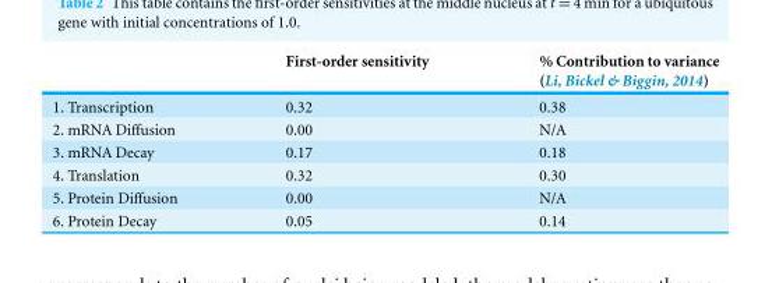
<table><thead><tr><td></td><td>First-order sensitivity</td><td>% Contribution to variance (Li, Bickel &amp; Biggin, 2014)</td></tr></thead><tbody><tr><td>1. Transcription</td><td>0.32</td><td>0.38</td></tr><tr><td>2. mRNA Diffusion</td><td>0.00</td><td>N/A</td></tr><tr><td>3. mRNA Decay</td><td>0.17</td><td>0.18</td></tr><tr><td>4. Translation</td><td>0.32</td><td>0.30</td></tr><tr><td>5. Protein Diffusion</td><td>0.00</td><td>N/A</td></tr><tr><td>6. Protein Decay</td><td>0.05</td><td>0.14</td></tr></tbody></table>